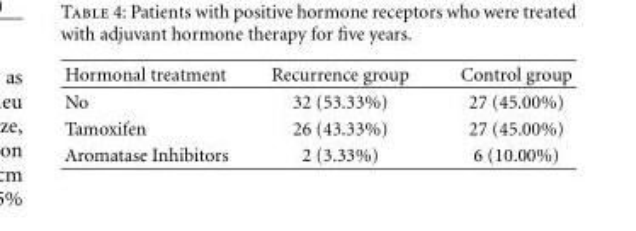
<table><thead><tr><td>Hormonal treatment</td><td>Recurrence group</td><td>Control group</td></tr></thead><tbody><tr><td>No</td><td>32 (53.33%)</td><td>27 (45.00%)</td></tr><tr><td>Tamoxifen</td><td>26 (43.33%)</td><td>27 (45.00%)</td></tr><tr><td>Aromatase Inhibitors</td><td>2 (3.33%)</td><td>6 (10.00%)</td></tr></tbody></table>